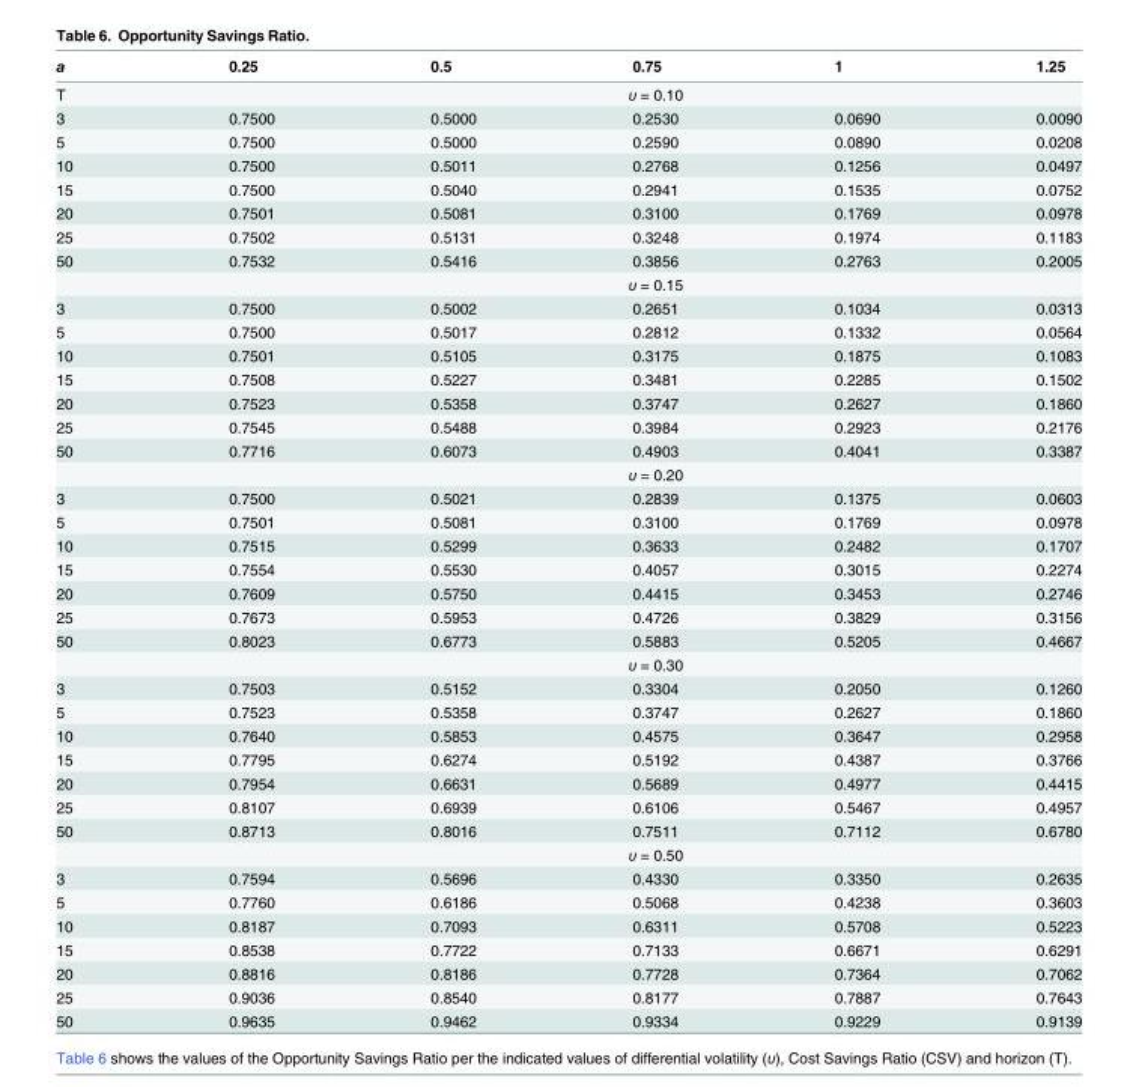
<table><thead><tr><td>a</td><td>0.25</td><td>0.5</td><td>0.75</td><td>1</td><td>1.25</td></tr></thead><tbody><tr><td>T</td><td colspan="5">υ = 0.10</td></tr><tr><td>3</td><td>0.7500</td><td>0.5000</td><td>0.2530</td><td>0.0690</td><td>0.0090</td></tr><tr><td>5</td><td>0.7500</td><td>0.5000</td><td>0.2590</td><td>0.0890</td><td>0.0208</td></tr><tr><td>10</td><td>0.7500</td><td>0.5011</td><td>0.2768</td><td>0.1256</td><td>0.0497</td></tr><tr><td>15</td><td>0.7500</td><td>0.5040</td><td>0.2941</td><td>0.1535</td><td>0.0752</td></tr><tr><td>20</td><td>0.7501</td><td>0.5081</td><td>0.3100</td><td>0.1769</td><td>0.0978</td></tr><tr><td>25</td><td>0.7502</td><td>0.5131</td><td>0.3248</td><td>0.1974</td><td>0.1183</td></tr><tr><td rowspan="2">50</td><td>0.7532</td><td>0.5416</td><td>0.3856</td><td>0.2763</td><td>0.2005</td></tr><tr><td colspan="5">υ = 0.15</td></tr><tr><td>3</td><td>0.7500</td><td>0.5002</td><td>0.2651</td><td>0.1034</td><td>0.0313</td></tr><tr><td>5</td><td>0.7500</td><td>0.5017</td><td>0.2812</td><td>0.1332</td><td>0.0564</td></tr><tr><td>10</td><td>0.7501</td><td>0.5105</td><td>0.3175</td><td>0.1875</td><td>0.1083</td></tr><tr><td>15</td><td>0.7508</td><td>0.5227</td><td>0.3481</td><td>0.2285</td><td>0.1502</td></tr><tr><td>20</td><td>0.7523</td><td>0.5358</td><td>0.3747</td><td>0.2627</td><td>0.1860</td></tr><tr><td>25</td><td>0.7545</td><td>0.5488</td><td>0.3984</td><td>0.2923</td><td>0.2176</td></tr><tr><td rowspan="2">50</td><td>0.7716</td><td>0.6073</td><td>0.4903</td><td>0.4041</td><td>0.3387</td></tr><tr><td colspan="5">υ = 0.20</td></tr><tr><td>3</td><td>0.7500</td><td>0.5021</td><td>0.2839</td><td>0.1375</td><td>0.0603</td></tr><tr><td>5</td><td>0.7501</td><td>0.5081</td><td>0.3100</td><td>0.1769</td><td>0.0978</td></tr><tr><td>10</td><td>0.7515</td><td>0.5299</td><td>0.3633</td><td>0.2482</td><td>0.1707</td></tr><tr><td>15</td><td>0.7554</td><td>0.5530</td><td>0.4057</td><td>0.3015</td><td>0.2274</td></tr><tr><td>20</td><td>0.7609</td><td>0.5750</td><td>0.4415</td><td>0.3453</td><td>0.2746</td></tr><tr><td>25</td><td>0.7673</td><td>0.5953</td><td>0.4726</td><td>0.3829</td><td>0.3156</td></tr><tr><td rowspan="2">50</td><td>0.8023</td><td>0.6773</td><td>0.5883</td><td>0.5205</td><td>0.4667</td></tr><tr><td colspan="5">υ = 0.30</td></tr><tr><td>3</td><td>0.7503</td><td>0.5152</td><td>0.3304</td><td>0.2050</td><td>0.1260</td></tr><tr><td>5</td><td>0.7523</td><td>0.5358</td><td>0.3747</td><td>0.2627</td><td>0.1860</td></tr><tr><td>10</td><td>0.7640</td><td>0.5853</td><td>0.4575</td><td>0.3647</td><td>0.2958</td></tr><tr><td>15</td><td>0.7795</td><td>0.6274</td><td>0.5192</td><td>0.4387</td><td>0.3766</td></tr><tr><td>20</td><td>0.7954</td><td>0.6631</td><td>0.5689</td><td>0.4977</td><td>0.4415</td></tr><tr><td>25</td><td>0.8107</td><td>0.6939</td><td>0.6106</td><td>0.5467</td><td>0.4957</td></tr><tr><td rowspan="2">50</td><td>0.8713</td><td>0.8016</td><td>0.7511</td><td>0.7112</td><td>0.6780</td></tr><tr><td colspan="5">υ = 0.50</td></tr><tr><td>3</td><td>0.7594</td><td>0.5696</td><td>0.4330</td><td>0.3350</td><td>0.2635</td></tr><tr><td>5</td><td>0.7760</td><td>0.6186</td><td>0.5068</td><td>0.4238</td><td>0.3603</td></tr><tr><td>10</td><td>0.8187</td><td>0.7093</td><td>0.6311</td><td>0.5708</td><td>0.5223</td></tr><tr><td>15</td><td>0.8538</td><td>0.7722</td><td>0.7133</td><td>0.6671</td><td>0.6291</td></tr><tr><td>20</td><td>0.8816</td><td>0.8186</td><td>0.7728</td><td>0.7364</td><td>0.7062</td></tr><tr><td>25</td><td>0.9036</td><td>0.8540</td><td>0.8177</td><td>0.7887</td><td>0.7643</td></tr><tr><td>50</td><td>0.9635</td><td>0.9462</td><td>0.9334</td><td>0.9229</td><td>0.9139</td></tr></tbody></table>